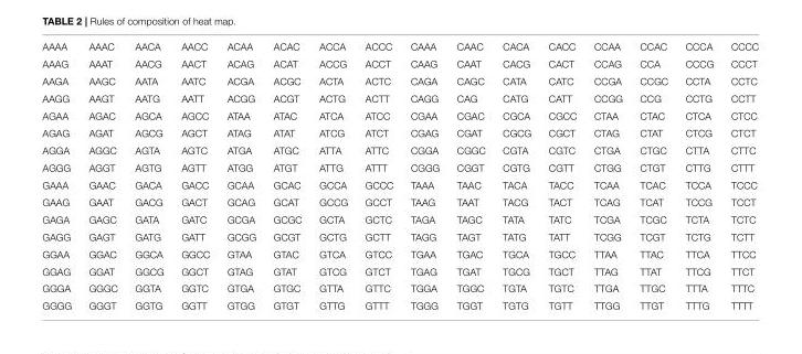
<table><tbody><tr><td>AAAA</td><td>AAAC</td><td>AACA</td><td>AACC</td><td>ACAA</td><td>ACAC</td><td>ACCA</td><td>ACCC</td><td>CAAA</td><td>CAAC</td><td>CACA</td><td>CACC</td><td>CCAA</td><td>CCAC</td><td>CCCA</td><td>CCCC</td></tr><tr><td>AAAG</td><td>AAAT</td><td>AACG</td><td>AACT</td><td>ACAG</td><td>ACAT</td><td>ACCG</td><td>ACCT</td><td>CAAG</td><td>CAAT</td><td>CACG</td><td>CACT</td><td>CCAG</td><td>CCA</td><td>CCCG</td><td>CCCT</td></tr><tr><td>AAGA</td><td>AAGC</td><td>AATA</td><td>AATC</td><td>ACGA</td><td>ACGC</td><td>ACTA</td><td>ACTC</td><td>CAGA</td><td>CAGC</td><td>CATA</td><td>CATC</td><td>CCGA</td><td>CCGC</td><td>CCTA</td><td>CCTC</td></tr><tr><td>AAGG</td><td>AAGT</td><td>AATG</td><td>AATT</td><td>ACGG</td><td>ACGT</td><td>ACTG</td><td>ACTT</td><td>CAGG</td><td>CAG</td><td>CATG</td><td>CATT</td><td>CCGG</td><td>CCG</td><td>CCTG</td><td>CCTT</td></tr><tr><td>AGAA</td><td>AGAC</td><td>AGCA</td><td>AGCC</td><td>ATAA</td><td>ATAC</td><td>ATCA</td><td>ATCC</td><td>CGAA</td><td>CGAC</td><td>CGCA</td><td>CGCC</td><td>CTAA</td><td>CTAC</td><td>CTCA</td><td>CTCC</td></tr><tr><td>AGAG</td><td>AGAT</td><td>AGCG</td><td>AGCT</td><td>ATAG</td><td>ATAT</td><td>ATCG</td><td>ATCT</td><td>CGAG</td><td>CGAT</td><td>CGCG</td><td>CGCT</td><td>CTAG</td><td>CTAT</td><td>CTCG</td><td>CTCT</td></tr><tr><td>AGGA</td><td>AGGC</td><td>AGTA</td><td>AGTC</td><td>ATGA</td><td>ATGC</td><td>ATTA</td><td>ATTC</td><td>CGGA</td><td>CGGC</td><td>CGTA</td><td>CGTC</td><td>CTGA</td><td>CTGC</td><td>CTTA</td><td>CTTC</td></tr><tr><td>AGGG</td><td>AGGT</td><td>AGTG</td><td>AGTT</td><td>ATGG</td><td>ATGT</td><td>ATTG</td><td>ATTT</td><td>CGGG</td><td>CGGT</td><td>CGTG</td><td>CGTT</td><td>CTGG</td><td>CTGT</td><td>CTTG</td><td>CTTT</td></tr><tr><td>GAAA</td><td>GAAC</td><td>GACA</td><td>GACC</td><td>GCAA</td><td>GCAC</td><td>GCCA</td><td>GCCC</td><td>TAAA</td><td>TAAC</td><td>TACA</td><td>TACC</td><td>TCAA</td><td>TCAC</td><td>TCCA</td><td>TCCC</td></tr><tr><td>GAAG</td><td>GAAT</td><td>GACG</td><td>GACT</td><td>GCAG</td><td>GCAT</td><td>GCCG</td><td>GCCT</td><td>TAAG</td><td>TAAT</td><td>TACG</td><td>TACT</td><td>TCAG</td><td>TCAT</td><td>TCCG</td><td>TCCT</td></tr><tr><td>GAGA</td><td>GAGC</td><td>GATA</td><td>GATC</td><td>GCGA</td><td>GCGC</td><td>GCTA</td><td>GCTC</td><td>TAGA</td><td>TAGC</td><td>TATA</td><td>TATC</td><td>TCGA</td><td>TCGC</td><td>TCTA</td><td>TCTC</td></tr><tr><td>GAGG</td><td>GAGT</td><td>GATG</td><td>GATT</td><td>GCGG</td><td>GCGT</td><td>GCTG</td><td>GCTT</td><td>TAGG</td><td>TAGT</td><td>TATG</td><td>TATT</td><td>TCGG</td><td>TCGT</td><td>TCTG</td><td>TCTT</td></tr><tr><td>GGAA</td><td>GGAC</td><td>GGCA</td><td>GGCC</td><td>GTAA</td><td>GTAC</td><td>GTCA</td><td>GTCC</td><td>TGAA</td><td>TGAC</td><td>TGCA</td><td>TGCC</td><td>TTAA</td><td>TTAC</td><td>TTCA</td><td>TTCC</td></tr><tr><td>GGAG</td><td>GGAT</td><td>GGCG</td><td>GGCT</td><td>GTAG</td><td>GTAT</td><td>GTCG</td><td>GTCT</td><td>TGAG</td><td>TGAT</td><td>TGCG</td><td>TGCT</td><td>TTAG</td><td>TTAT</td><td>TTCG</td><td>TTCT</td></tr><tr><td>GGGA</td><td>GGGC</td><td>GGTA</td><td>GGTC</td><td>GTGA</td><td>GTGC</td><td>GTTA</td><td>GTTC</td><td>TGGA</td><td>TGGC</td><td>TGTA</td><td>TGTC</td><td>TTGA</td><td>TTGC</td><td>TTTA</td><td>TTTC</td></tr><tr><td>GGGG</td><td>GGGT</td><td>GGTG</td><td>GGTT</td><td>GTGG</td><td>GTGT</td><td>GTTG</td><td>GTTT</td><td>TGGG</td><td>TGGT</td><td>TGTG</td><td>TGTT</td><td>TTGG</td><td>TTGT</td><td>TTTG</td><td>TTTT</td></tr></tbody></table>